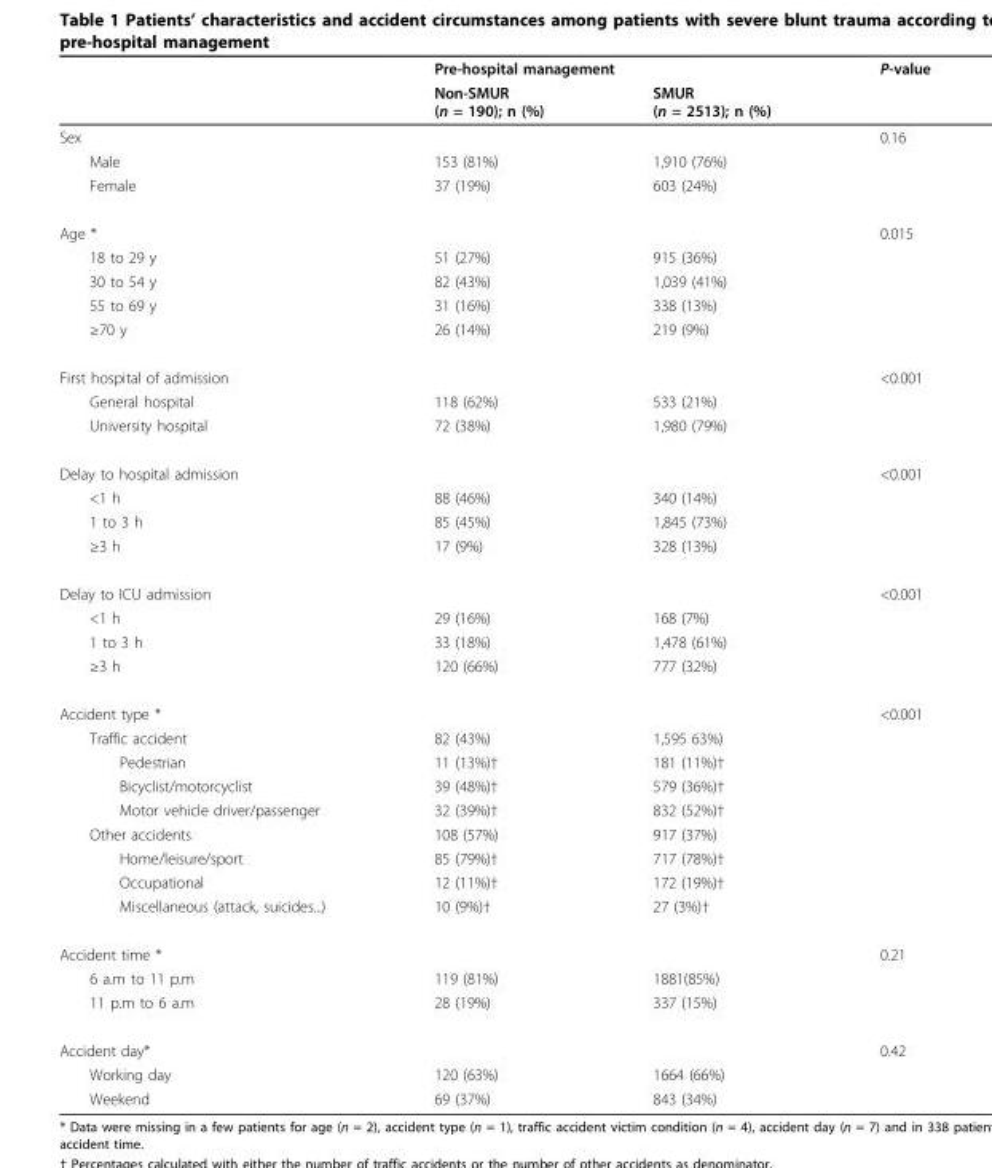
<table><thead><tr><td rowspan="2"></td><td colspan="2">Pre-hospital management</td><td rowspan="2">P-value</td></tr><tr><td>Non-SMUR (n = 190); n (%)</td><td>SMUR (n = 2513); n (%)</td></tr></thead><tbody><tr><td>Sex</td><td></td><td></td><td>0.16</td></tr><tr><td>Male</td><td>153 (81%)</td><td>1,910 (76%)</td><td></td></tr><tr><td>Female</td><td>37 (19%)</td><td>603 (24%)</td><td></td></tr><tr><td>Age *</td><td></td><td></td><td>0.015</td></tr><tr><td>18 to 29 y</td><td>51 (27%)</td><td>915 (36%)</td><td></td></tr><tr><td>30 to 54 y</td><td>82 (43%)</td><td>1,039 (41%)</td><td></td></tr><tr><td>55 to 69 y</td><td>31 (16%)</td><td>338 (13%)</td><td></td></tr><tr><td>≥70 y</td><td>26 (14%)</td><td>219 (9%)</td><td></td></tr><tr><td>First hospital of admission</td><td></td><td></td><td>&lt;0.001</td></tr><tr><td>General hospital</td><td>118 (62%)</td><td>533 (21%)</td><td></td></tr><tr><td>University hospital</td><td>72 (38%)</td><td>1,980 (79%)</td><td></td></tr><tr><td>Delay to hospital admission</td><td></td><td></td><td>&lt;0.001</td></tr><tr><td>&lt;1 h</td><td>88 (46%)</td><td>340 (14%)</td><td></td></tr><tr><td>1 to 3 h</td><td>85 (45%)</td><td>1,845 (73%)</td><td></td></tr><tr><td>≥3 h</td><td>17 (9%)</td><td>328 (13%)</td><td></td></tr><tr><td>Delay to ICU admission</td><td></td><td></td><td>&lt;0.001</td></tr><tr><td>&lt;1 h</td><td>29 (16%)</td><td>168 (7%)</td><td></td></tr><tr><td>1 to 3 h</td><td>33 (18%)</td><td>1,478 (61%)</td><td></td></tr><tr><td>≥3 h</td><td>120 (66%)</td><td>777 (32%)</td><td></td></tr><tr><td>Accident type *</td><td></td><td></td><td>&lt;0.001</td></tr><tr><td>Traffic accident</td><td>82 (43%)</td><td>1,595 63%)</td><td></td></tr><tr><td>Pedestrian</td><td>11 (13%)†</td><td>181 (11%)†</td><td></td></tr><tr><td>Bicyclist/motorcyclist</td><td>39 (48%)†</td><td>579 (36%)†</td><td></td></tr><tr><td>Motor vehicle driver/passenger</td><td>32 (39%)†</td><td>832 (52%)†</td><td></td></tr><tr><td>Other accidents</td><td>108 (57%)</td><td>917 (37%)</td><td></td></tr><tr><td>Home/leisure/sport</td><td>85 (79%)†</td><td>717 (78%)†</td><td></td></tr><tr><td>Occupational</td><td>12 (11%)†</td><td>172 (19%)†</td><td></td></tr><tr><td>Miscellaneous (attack, suicides...)</td><td>10 (9%)†</td><td>27 (3%)†</td><td></td></tr><tr><td>Accident time *</td><td></td><td></td><td>0.21</td></tr><tr><td>6 a.m to 11 p.m</td><td>119 (81%)</td><td>1881(85%)</td><td></td></tr><tr><td>11 p.m to 6 a.m</td><td>28 (19%)</td><td>337 (15%)</td><td></td></tr><tr><td>Accident day*</td><td></td><td></td><td>0.42</td></tr><tr><td>Working day</td><td>120 (63%)</td><td>1664 (66%)</td><td></td></tr><tr><td>Weekend</td><td>69 (37%)</td><td>843 (34%)</td><td></td></tr></tbody></table>